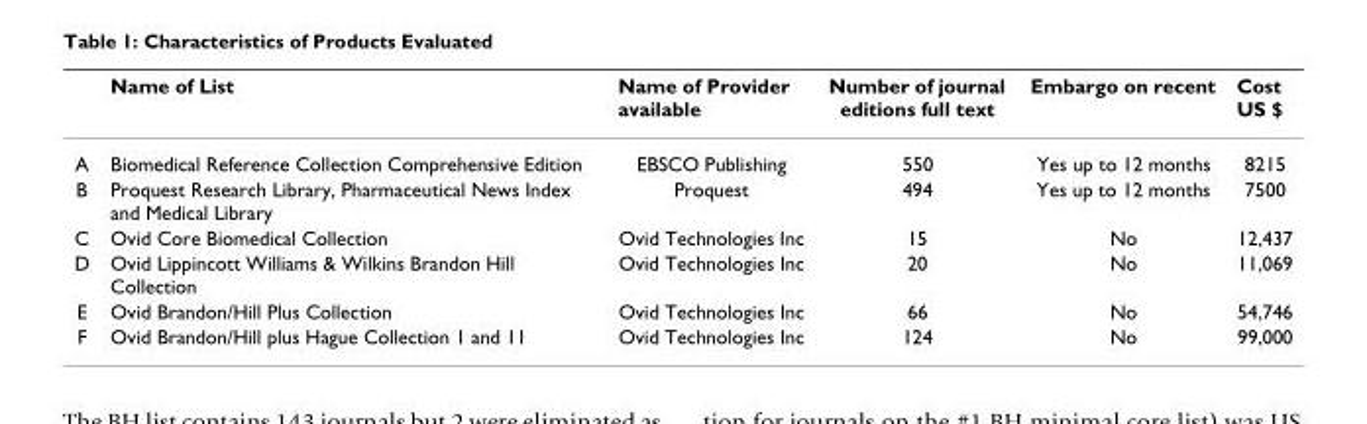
<table><thead><tr><td></td><td>Name of List</td><td>Name of Provider available</td><td>Number of journal editions full text</td><td>Embargo on recent</td><td>Cost US $</td></tr></thead><tbody><tr><td>A</td><td>Biomedical Reference Collection Comprehensive Edition</td><td>EBSCO Publishing</td><td>550</td><td>Yes up to 12 months</td><td>8215</td></tr><tr><td>B</td><td>Proquest Research Library, Pharmaceutical News Index and Medical Library</td><td>Proquest</td><td>494</td><td>Yes up to 12 months</td><td>7500</td></tr><tr><td>C</td><td>Ovid Core Biomedical Collection</td><td>Ovid Technologies Inc</td><td>15</td><td>No</td><td>12,437</td></tr><tr><td>D</td><td>Ovid Lippincott Williams &amp; Wilkins Brandon Hill Collection</td><td>Ovid Technologies Inc</td><td>20</td><td>No</td><td>11,069</td></tr><tr><td>E</td><td>Ovid Brandon/Hill Plus Collection</td><td>Ovid Technologies Inc</td><td>66</td><td>No</td><td>54,746</td></tr><tr><td>F</td><td>Ovid Brandon/Hill plus Hague Collection 1 and 11</td><td>Ovid Technologies Inc</td><td>124</td><td>No</td><td>99,000</td></tr></tbody></table>